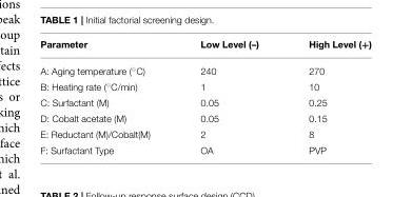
<table><thead><tr><td>Parameter</td><td>Low Level (–)</td><td>High Level (+)</td></tr></thead><tbody><tr><td>A: Aging temperature (◦C)</td><td>240</td><td>270</td></tr><tr><td>B: Heating rate (◦C/min)</td><td>1</td><td>10</td></tr><tr><td>C: Surfactant (M)</td><td>0.05</td><td>0.25</td></tr><tr><td>D: Cobalt acetate (M)</td><td>0.05</td><td>0.15</td></tr><tr><td>E: Reductant (M)/Cobalt(M)</td><td>2</td><td>8</td></tr><tr><td>F: Surfactant Type</td><td>OA</td><td>PVP</td></tr></tbody></table>